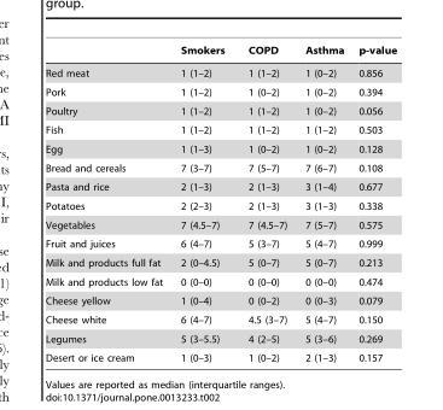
<table><thead><tr><td></td><td>Smokers</td><td>COPD</td><td>Asthma</td><td>p-value</td></tr></thead><tbody><tr><td>Red meat</td><td>1 (1–2)</td><td>1 (1–2)</td><td>1 (0–2)</td><td>0.856</td></tr><tr><td>Pork</td><td>1 (1–2)</td><td>1 (0–2)</td><td>1 (0–2)</td><td>0.394</td></tr><tr><td>Poultry</td><td>1 (1–2)</td><td>1 (1–2)</td><td>1 (0–2)</td><td>0.056</td></tr><tr><td>Fish</td><td>1 (1–2)</td><td>1 (1–2)</td><td>1 (1–2)</td><td>0.503</td></tr><tr><td>Egg</td><td>1 (1–3)</td><td>1 (0–2)</td><td>1 (0–2)</td><td>0.128</td></tr><tr><td>Bread and cereals</td><td>7 (3–7)</td><td>7 (5–7)</td><td>7 (6–7)</td><td>0.108</td></tr><tr><td>Pasta and rice</td><td>2 (1–3)</td><td>2 (1–3)</td><td>3 (1–4)</td><td>0.677</td></tr><tr><td>Potatoes</td><td>2 (2–3)</td><td>2 (1–3)</td><td>3 (1–3)</td><td>0.338</td></tr><tr><td>Vegetables</td><td>7 (4.5–7)</td><td>7 (4.5–7)</td><td>7 (5–7)</td><td>0.575</td></tr><tr><td>Fruit and juices</td><td>6 (4–7)</td><td>5 (3–7)</td><td>5 (4–7)</td><td>0.999</td></tr><tr><td>Milk and products full fat</td><td>2 (0–4.5)</td><td>5 (0–7)</td><td>5 (0–7)</td><td>0.213</td></tr><tr><td>Milk and products low fat</td><td>0 (0–0)</td><td>0 (0–0)</td><td>0 (0–0)</td><td>0.474</td></tr><tr><td>Cheese yellow</td><td>1 (0–4)</td><td>0 (0–2)</td><td>0 (0–3)</td><td>0.079</td></tr><tr><td>Cheese white</td><td>6 (4–7)</td><td>4.5 (3–7)</td><td>5 (4–7)</td><td>0.150</td></tr><tr><td>Legumes</td><td>5 (3–5.5)</td><td>4 (2–5)</td><td>5 (3–6)</td><td>0.269</td></tr><tr><td>Desert or ice cream</td><td>1 (0–3)</td><td>1 (0–2)</td><td>2 (1–3)</td><td>0.157</td></tr></tbody></table>